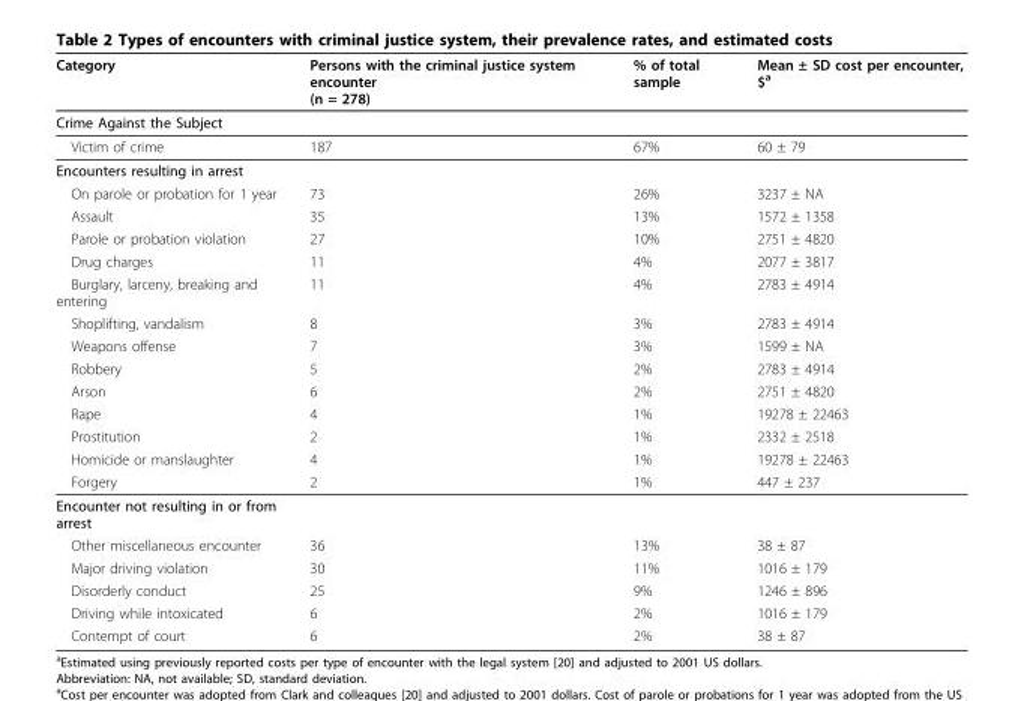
<table><thead><tr><td>Category</td><td>Persons with the criminal justice system encounter (n = 278)</td><td>% of total sample</td><td>Mean ± SD cost per encounter, $<sup>a</sup></td></tr></thead><tbody><tr><td colspan="4">Crime Against the Subject</td></tr><tr><td>Victim of crime</td><td>187</td><td>67%</td><td>60 ± 79</td></tr><tr><td colspan="4">Encounters resulting in arrest</td></tr><tr><td>On parole or probation for 1 year</td><td>73</td><td>26%</td><td>3237 ± NA</td></tr><tr><td>Assault</td><td>35</td><td>13%</td><td>1572 ± 1358</td></tr><tr><td>Parole or probation violation</td><td>27</td><td>10%</td><td>2751 ± 4820</td></tr><tr><td>Drug charges</td><td>11</td><td>4%</td><td>2077 ± 3817</td></tr><tr><td>Burglary, larceny, breaking and entering</td><td>11</td><td>4%</td><td>2783 ± 4914</td></tr><tr><td>Shoplifting, vandalism</td><td>8</td><td>3%</td><td>2783 ± 4914</td></tr><tr><td>Weapons offense</td><td>7</td><td>3%</td><td>1599 ± NA</td></tr><tr><td>Robbery</td><td>5</td><td>2%</td><td>2783 ± 4914</td></tr><tr><td>Arson</td><td>6</td><td>2%</td><td>2751 ± 4820</td></tr><tr><td>Rape</td><td>4</td><td>1%</td><td>19278 ± 22463</td></tr><tr><td>Prostitution</td><td>2</td><td>1%</td><td>2332 ± 2518</td></tr><tr><td>Homicide or manslaughter</td><td>4</td><td>1%</td><td>19278 ± 22463</td></tr><tr><td>Forgery</td><td>2</td><td>1%</td><td>447 ± 237</td></tr><tr><td colspan="4">Encounter not resulting in or from arrest</td></tr><tr><td>Other miscellaneous encounter</td><td>36</td><td>13%</td><td>38 ± 87</td></tr><tr><td>Major driving violation</td><td>30</td><td>11%</td><td>1016 ± 179</td></tr><tr><td>Disorderly conduct</td><td>25</td><td>9%</td><td>1246 ± 896</td></tr><tr><td>Driving while intoxicated</td><td>6</td><td>2%</td><td>1016 ± 179</td></tr><tr><td>Contempt of court</td><td>6</td><td>2%</td><td>38 ± 87</td></tr></tbody></table>